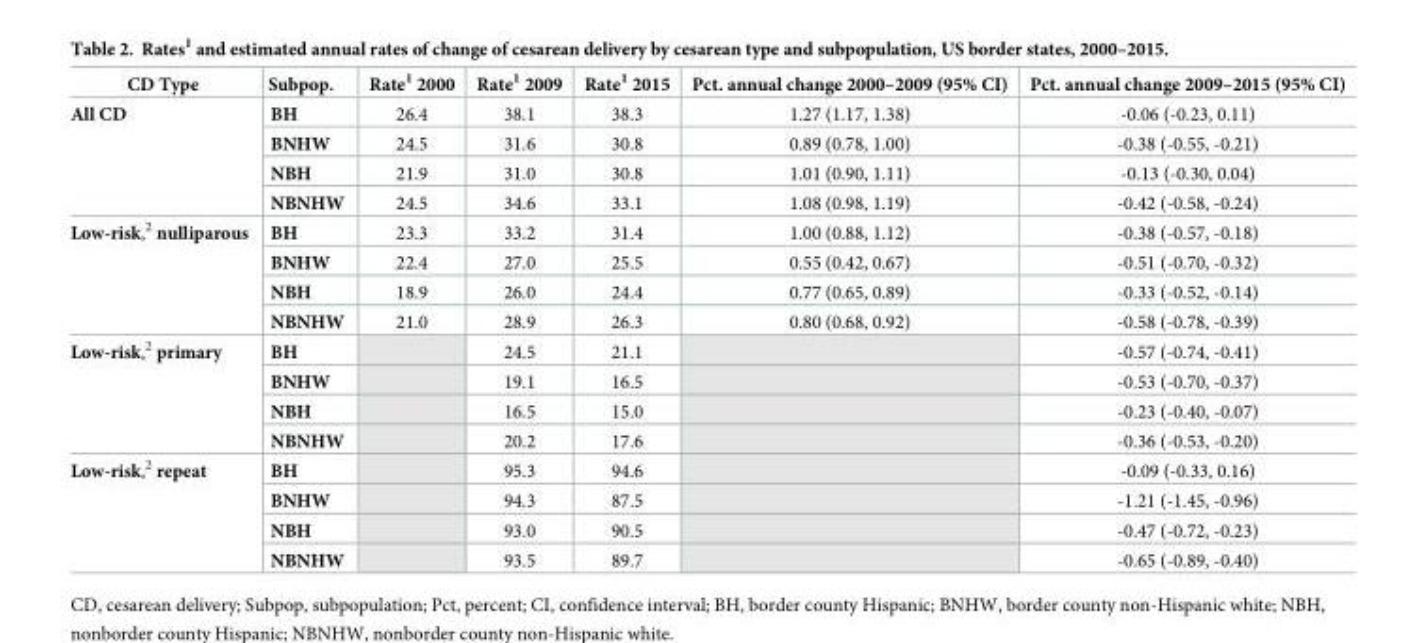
<table><thead><tr><td>CD Type</td><td>Subpop.</td><td>Rate<sup>1</sup> 2000</td><td>Rate<sup>1</sup> 2009</td><td>Rate<sup>1</sup> 2015</td><td>Pct. annual change 2000–2009 (95% CI)</td><td>Pct. annual change 2009–2015 (95% CI)</td></tr></thead><tbody><tr><td rowspan="4">All CD</td><td>BH</td><td>26.4</td><td>38.1</td><td>38.3</td><td>1.27 (1.17, 1.38)</td><td>-0.06 (-0.23, 0.11)</td></tr><tr><td>BNHW</td><td>24.5</td><td>31.6</td><td>30.8</td><td>0.89 (0.78, 1.00)</td><td>-0.38 (-0.55, -0.21)</td></tr><tr><td>NBH</td><td>21.9</td><td>31.0</td><td>30.8</td><td>1.01 (0.90, 1.11)</td><td>-0.13 (-0.30, 0.04)</td></tr><tr><td>NBNHW</td><td>24.5</td><td>34.6</td><td>33.1</td><td>1.08 (0.98, 1.19)</td><td>-0.42 (-0.58, -0.24)</td></tr><tr><td rowspan="4">Low-risk,<sup>2</sup> nulliparous</td><td>BH</td><td>23.3</td><td>33.2</td><td>31.4</td><td>1.00 (0.88, 1.12)</td><td>-0.38 (-0.57, -0.18)</td></tr><tr><td>BNHW</td><td>22.4</td><td>27.0</td><td>25.5</td><td>0.55 (0.42, 0.67)</td><td>-0.51 (-0.70, -0.32)</td></tr><tr><td>NBH</td><td>18.9</td><td>26.0</td><td>24.4</td><td>0.77 (0.65, 0.89)</td><td>-0.33 (-0.52, -0.14)</td></tr><tr><td>NBNHW</td><td>21.0</td><td>28.9</td><td>26.3</td><td>0.80 (0.68, 0.92)</td><td>-0.58 (-0.78, -0.39)</td></tr><tr><td rowspan="4">Low-risk,<sup>2</sup> primary</td><td>BH</td><td></td><td>24.5</td><td>21.1</td><td></td><td>-0.57 (-0.74, -0.41)</td></tr><tr><td>BNHW</td><td></td><td>19.1</td><td>16.5</td><td></td><td>-0.53 (-0.70, -0.37)</td></tr><tr><td>NBH</td><td></td><td>16.5</td><td>15.0</td><td></td><td>-0.23 (-0.40, -0.07)</td></tr><tr><td>NBNHW</td><td></td><td>20.2</td><td>17.6</td><td></td><td>-0.36 (-0.53, -0.20)</td></tr><tr><td rowspan="4">Low-risk,<sup>2</sup> repeat</td><td>BH</td><td></td><td>95.3</td><td>94.6</td><td></td><td>-0.09 (-0.33, 0.16)</td></tr><tr><td>BNHW</td><td></td><td>94.3</td><td>87.5</td><td></td><td>-1.21 (-1.45, -0.96)</td></tr><tr><td>NBH</td><td></td><td>93.0</td><td>90.5</td><td></td><td>-0.47 (-0.72, -0.23)</td></tr><tr><td>NBNHW</td><td></td><td>93.5</td><td>89.7</td><td></td><td>-0.65 (-0.89, -0.40)</td></tr></tbody></table>